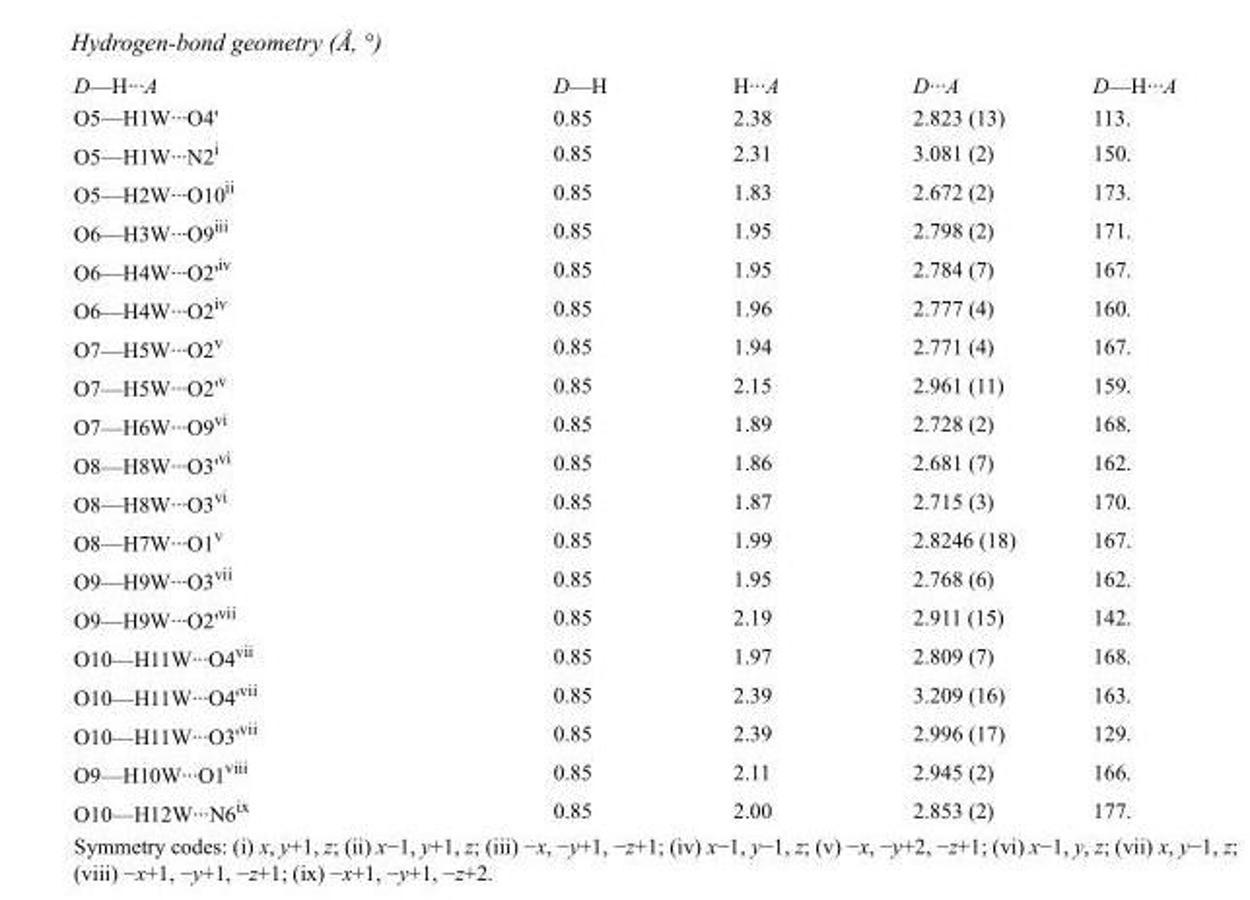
<table><tbody><tr><td>D—H···A</td><td>D—H</td><td>H···A</td><td>D···A</td><td>D—H···A</td></tr><tr><td>O5—H1W···O4&#x27;</td><td>0.85</td><td>2.38</td><td>2.823 (13)</td><td>113.</td></tr><tr><td>O5—H1W···N2<sup>i</sup></td><td>0.85</td><td>2.31</td><td>3.081 (2)</td><td>150.</td></tr><tr><td>O5—H2W···O10<sup>ii</sup></td><td>0.85</td><td>1.83</td><td>2.672 (2)</td><td>173.</td></tr><tr><td>O6—H3W···O9<sup>iii</sup></td><td>0.85</td><td>1.95</td><td>2.798 (2)</td><td>171.</td></tr><tr><td>O6—H4W···O2&#x27;<sup>iv</sup></td><td>0.85</td><td>1.95</td><td>2.784 (7)</td><td>167.</td></tr><tr><td>O6—H4W···O2<sup>iv</sup></td><td>0.85</td><td>1.96</td><td>2.777 (4)</td><td>160.</td></tr><tr><td>O7—H5W···O2<sup>v</sup></td><td>0.85</td><td>1.94</td><td>2.771 (4)</td><td>167.</td></tr><tr><td>O7—H5W···O2&#x27;<sup>v</sup></td><td>0.85</td><td>2.15</td><td>2.961 (11)</td><td>159.</td></tr><tr><td>O7—H6W···O9<sup>vi</sup></td><td>0.85</td><td>1.89</td><td>2.728 (2)</td><td>168.</td></tr><tr><td>O8—H8W···O3&#x27;<sup>vi</sup></td><td>0.85</td><td>1.86</td><td>2.681 (7)</td><td>162.</td></tr><tr><td>O8—H8W···O3<sup>vi</sup></td><td>0.85</td><td>1.87</td><td>2.715 (3)</td><td>170.</td></tr><tr><td>O8—H7W···O1<sup>v</sup></td><td>0.85</td><td>1.99</td><td>2.8246 (18)</td><td>167.</td></tr><tr><td>O9—H9W···O3<sup>vii</sup></td><td>0.85</td><td>1.95</td><td>2.768 (6)</td><td>162.</td></tr><tr><td>O9—H9W···O2&#x27;<sup>vii</sup></td><td>0.85</td><td>2.19</td><td>2.911 (15)</td><td>142.</td></tr><tr><td>O10—H11W···O4<sup>vii</sup></td><td>0.85</td><td>1.97</td><td>2.809 (7)</td><td>168.</td></tr><tr><td>O10—H11W···O4&#x27;<sup>vii</sup></td><td>0.85</td><td>2.39</td><td>3.209 (16)</td><td>163.</td></tr><tr><td>O10—H11W···O3&#x27;<sup>vii</sup></td><td>0.85</td><td>2.39</td><td>2.996 (17)</td><td>129.</td></tr><tr><td>O9—H10W···O1<sup>viii</sup></td><td>0.85</td><td>2.11</td><td>2.945 (2)</td><td>166.</td></tr><tr><td>O10—H12W···N6<sup>ix</sup></td><td>0.85</td><td>2.00</td><td>2.853 (2)</td><td>177.</td></tr></tbody></table>